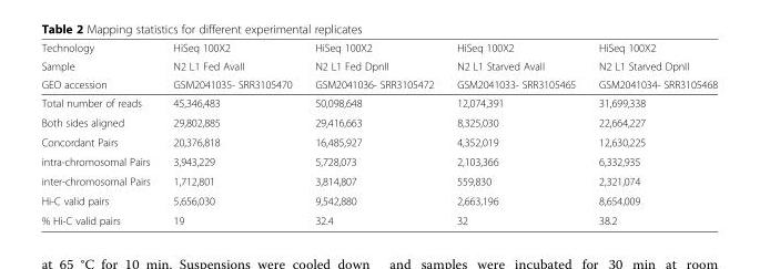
<table><thead><tr><td rowspan="3">Technology Sample GEO accession</td><td rowspan="3">HiSeq 100X2 N2 L1 Fed AvaII GSM2041035- SRR3105470</td><td rowspan="3">HiSeq 100X2 N2 L1 Fed DpnII GSM2041036- SRR3105472</td><td rowspan="3">HiSeq 100X2 N2 L1 Starved AvaII GSM2041033- SRR3105465</td><td rowspan="3">HiSeq 100X2 N2 L1 Starved DpnII GSM2041034- SRR3105468</td></tr><tr></tr><tr></tr></thead><tbody><tr><td>Total number of reads</td><td>45,346,483</td><td>50,098,648</td><td>12,074,391</td><td>31,699,338</td></tr><tr><td>Both sides aligned</td><td>29,802,885</td><td>29,416,663</td><td>8,325,030</td><td>22,664,227</td></tr><tr><td>Concordant Pairs</td><td>20,376,818</td><td>16,485,927</td><td>4,352,019</td><td>12,630,225</td></tr><tr><td>intra-chromosomal Pairs</td><td>3,943,229</td><td>5,728,073</td><td>2,103,366</td><td>6,332,935</td></tr><tr><td>inter-chromosomal Pairs</td><td>1,712,801</td><td>3,814,807</td><td>559,830</td><td>2,321,074</td></tr><tr><td>Hi-C valid pairs</td><td>5,656,030</td><td>9,542,880</td><td>2,663,196</td><td>8,654,009</td></tr><tr><td>% Hi-C valid pairs</td><td>19</td><td>32.4</td><td>32</td><td>38.2</td></tr></tbody></table>